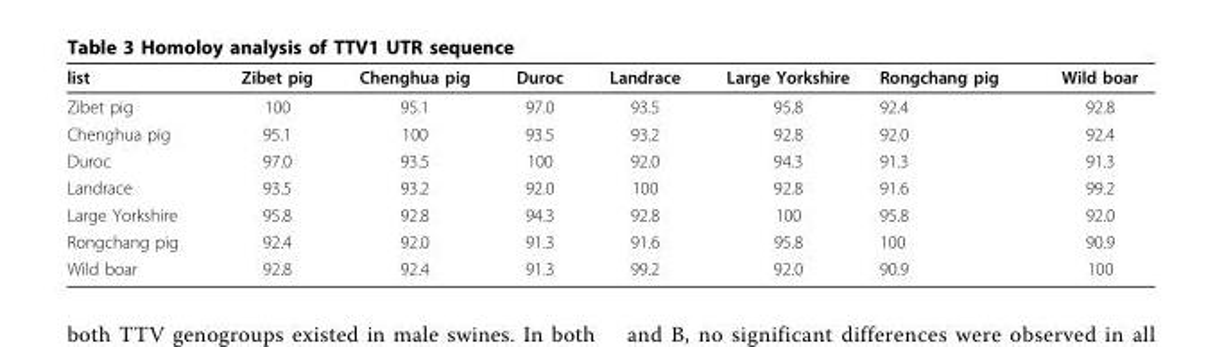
<table><thead><tr><td>list</td><td>Zibet pig</td><td>Chenghua pig</td><td>Duroc</td><td>Landrace</td><td>Large Yorkshire</td><td>Rongchang pig</td><td>Wild boar</td></tr></thead><tbody><tr><td>Zibet pig</td><td>100</td><td>95.1</td><td>97.0</td><td>93.5</td><td>95.8</td><td>92.4</td><td>92.8</td></tr><tr><td>Chenghua pig</td><td>95.1</td><td>100</td><td>93.5</td><td>93.2</td><td>92.8</td><td>92.0</td><td>92.4</td></tr><tr><td>Duroc</td><td>97.0</td><td>93.5</td><td>100</td><td>92.0</td><td>94.3</td><td>91.3</td><td>91.3</td></tr><tr><td>Landrace</td><td>93.5</td><td>93.2</td><td>92.0</td><td>100</td><td>92.8</td><td>91.6</td><td>99.2</td></tr><tr><td>Large Yorkshire</td><td>95.8</td><td>92.8</td><td>94.3</td><td>92.8</td><td>100</td><td>95.8</td><td>92.0</td></tr><tr><td>Rongchang pig</td><td>92.4</td><td>92.0</td><td>91.3</td><td>91.6</td><td>95.8</td><td>100</td><td>90.9</td></tr><tr><td>Wild boar</td><td>92.8</td><td>92.4</td><td>91.3</td><td>99.2</td><td>92.0</td><td>90.9</td><td>100</td></tr></tbody></table>